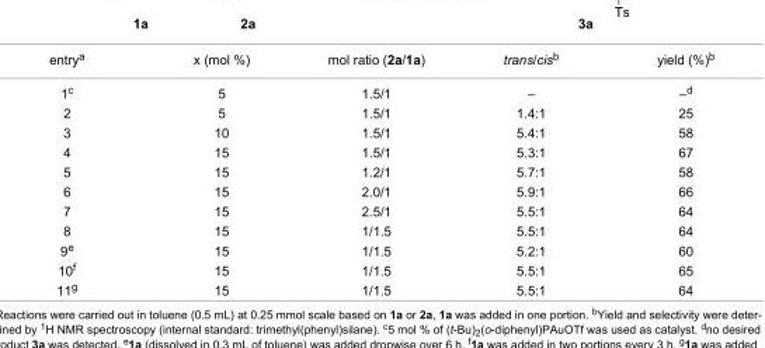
<table><tbody><tr><td>entry<sup>a</sup></td><td>x (mol %)</td><td>mol ratio (2a/1a)</td><td>trans/cis<sup>b</sup></td><td>yield (%)<sup>b</sup></td></tr><tr><td>1<sup>c</sup></td><td>5</td><td>1.5/1</td><td>–</td><td>–<sup>d</sup></td></tr><tr><td>2</td><td>5</td><td>1.5/1</td><td>1.4:1</td><td>25</td></tr><tr><td>3</td><td>10</td><td>1.5/1</td><td>5.4:1</td><td>58</td></tr><tr><td>4</td><td>15</td><td>1.5/1</td><td>5.3:1</td><td>67</td></tr><tr><td>5</td><td>15</td><td>1.2/1</td><td>5.7:1</td><td>58</td></tr><tr><td>6</td><td>15</td><td>2.0/1</td><td>5.9:1</td><td>66</td></tr><tr><td>7</td><td>15</td><td>2.5/1</td><td>5.5:1</td><td>64</td></tr><tr><td>8</td><td>15</td><td>1/1.5</td><td>5.5:1</td><td>64</td></tr><tr><td>9<sup>e</sup></td><td>15</td><td>1/1.5</td><td>5.2:1</td><td>60</td></tr><tr><td>10<sup>f</sup></td><td>15</td><td>1/1.5</td><td>5.5:1</td><td>65</td></tr><tr><td>11<sup>g</sup></td><td>15</td><td>1/1.5</td><td>5.5:1</td><td>64</td></tr></tbody></table>